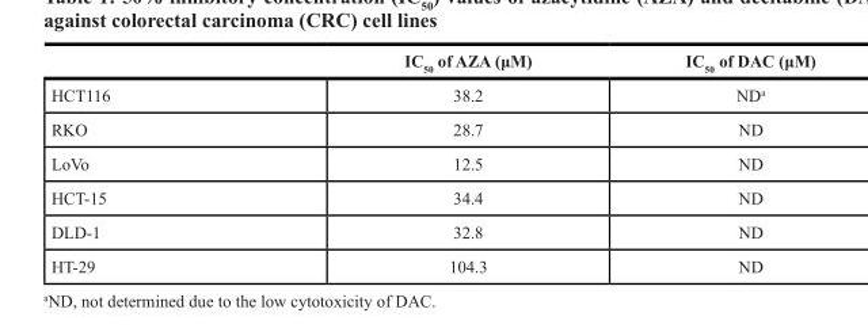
<table><thead><tr><td></td><td>IC<sub>50</sub> of AZA (μM)</td><td>IC<sub>50</sub> of DAC (μM)</td></tr></thead><tbody><tr><td>HCT116</td><td>38.2</td><td>ND<sup>a</sup></td></tr><tr><td>RKO</td><td>28.7</td><td>ND</td></tr><tr><td>LoVo</td><td>12.5</td><td>ND</td></tr><tr><td>HCT-15</td><td>34.4</td><td>ND</td></tr><tr><td>DLD-1</td><td>32.8</td><td>ND</td></tr><tr><td>HT-29</td><td>104.3</td><td>ND</td></tr></tbody></table>